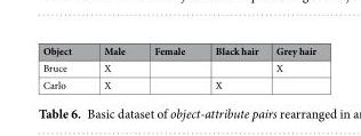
<table><thead><tr><td>Object</td><td>Male</td><td>Female</td><td>Black hair</td><td>Grey hair</td></tr></thead><tbody><tr><td>Bruce</td><td>X</td><td></td><td></td><td>X</td></tr><tr><td>Carlo</td><td>X</td><td></td><td>X</td><td></td></tr></tbody></table>